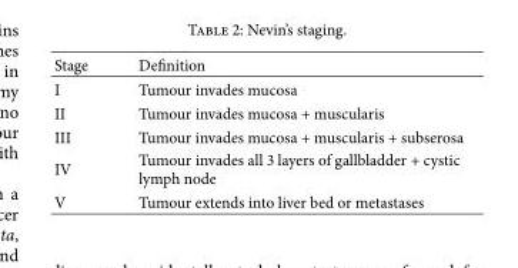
<table><thead><tr><td>Stage</td><td>Definition</td></tr></thead><tbody><tr><td>I</td><td>Tumour invades mucosa</td></tr><tr><td>II</td><td>Tumour invades mucosa + muscularis</td></tr><tr><td>III</td><td>Tumour invades mucosa + muscularis + subserosa</td></tr><tr><td>IV</td><td>Tumour invades all 3 layers of gallbladder + cystic lymph node</td></tr><tr><td>V</td><td>Tumour extends into liver bed or metastases</td></tr></tbody></table>